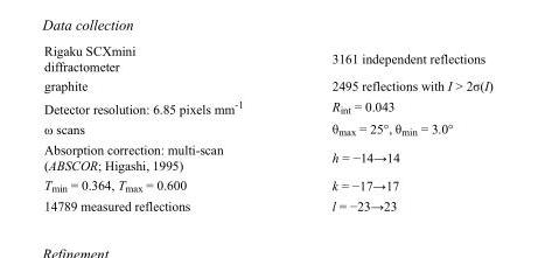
<table><tbody><tr><td>Rigaku SCXmini diffractometer</td><td>3161 independent reflections</td></tr><tr><td>graphite</td><td>2495 reflections with I &gt; 2σ(I)</td></tr><tr><td>Detector resolution: 6.85 pixels mm<sup>-1</sup></td><td>R<sub>int</sub> = 0.043</td></tr><tr><td>ω scans</td><td>θ<sub>max</sub> = 25°, θ<sub>min</sub> = 3.0°</td></tr><tr><td>Absorption correction: multi-scan (ABSCOR; Higashi, 1995)</td><td>h = −14→14</td></tr><tr><td>T<sub>min</sub> = 0.364, T<sub>max</sub> = 0.600</td><td>k = −17→17</td></tr><tr><td>14789 measured reflections</td><td>l = −23→23</td></tr></tbody></table>